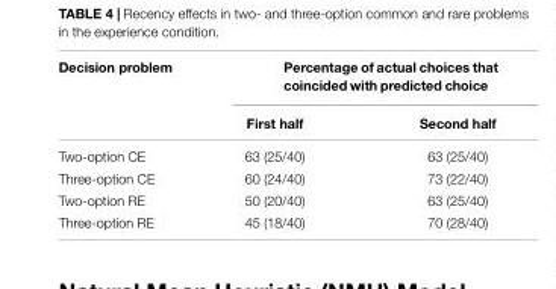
<table><thead><tr><td rowspan="2">Decision problem</td><td colspan="2">Percentage of actual choices that coincided with predicted choice</td></tr><tr><td>First half</td><td>Second half</td></tr></thead><tbody><tr><td>Two-option CE</td><td>63 (25/40)</td><td>63 (25/40)</td></tr><tr><td>Three-option CE</td><td>60 (24/40)</td><td>73 (22/40)</td></tr><tr><td>Two-option RE</td><td>50 (20/40)</td><td>63 (25/40)</td></tr><tr><td>Three-option RE</td><td>45 (18/40)</td><td>70 (28/40)</td></tr></tbody></table>